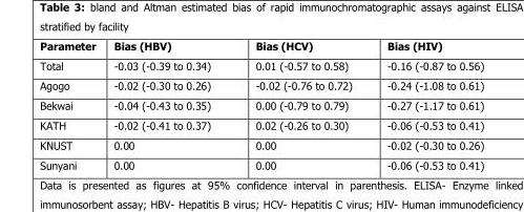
<table><thead><tr><td>Parameter</td><td>Bias (HBV)</td><td>Bias (HCV)</td><td>Bias (HIV)</td></tr></thead><tbody><tr><td>Total</td><td>-0.03 (-0.39 to 0.34)</td><td>0.01 (-0.57 to 0.58)</td><td>-0.16 (-0.87 to 0.56)</td></tr><tr><td>Agogo</td><td>-0.02 (-0.30 to 0.26)</td><td>-0.02 (-0.76 to 0.72)</td><td>-0.24 (-1.08 to 0.61)</td></tr><tr><td>Bekwai</td><td>-0.04 (-0.43 to 0.35)</td><td>0.00 (-0.79 to 0.79)</td><td>-0.27 (-1.17 to 0.61)</td></tr><tr><td>KATH</td><td>-0.02 (-0.41 to 0.37)</td><td>0.02 (-0.26 to 0.30)</td><td>-0.06 (-0.53 to 0.41)</td></tr><tr><td>KNUST</td><td>0.00</td><td>0.00</td><td>-0.02 (-0.30 to 0.26)</td></tr><tr><td>Sunyani</td><td>0.00</td><td>0.00</td><td>-0.06 (-0.53 to 0.41)</td></tr></tbody></table>